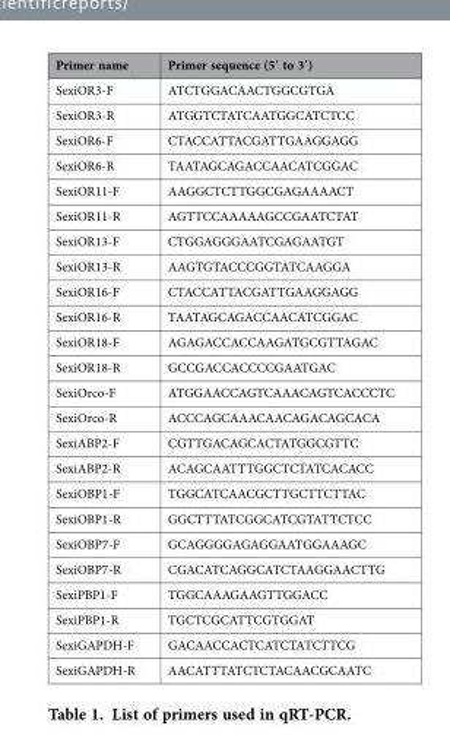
<table><thead><tr><td>Primer name</td><td>Primer sequence (5′ to 3′)</td></tr></thead><tbody><tr><td>SexiOR3-F</td><td>ATCTGGACAACTGGCGTGA</td></tr><tr><td>SexiOR3-R</td><td>ATGGTCTATCAATGGCATCTCC</td></tr><tr><td>SexiOR6-F</td><td>CTACCATTACGATTGAAGGAGG</td></tr><tr><td>SexiOR6-R</td><td>TAATAGCAGACCAACATCGGAC</td></tr><tr><td>SexiOR11-F</td><td>AAGGCTCTTGGCGAGAAAACT</td></tr><tr><td>SexiOR11-R</td><td>AGTTCCAAAAAGCCGAATCTAT</td></tr><tr><td>SexiOR13-F</td><td>CTGGAGGGAATCGAGAATGT</td></tr><tr><td>SexiOR13-R</td><td>AAGTGTACCCGGTATCAAGGA</td></tr><tr><td>SexiOR16-F</td><td>CTACCATTACGATTGAAGGAGG</td></tr><tr><td>SexiOR16-R</td><td>TAATAGCAGACCAACATCGGAC</td></tr><tr><td>SexiOR18-F</td><td>AGAGACCACCAAGATGCGTTAGAC</td></tr><tr><td>SexiOR18-R</td><td>GCCGACCACCCCGAATGAC</td></tr><tr><td>SexiOrco-F</td><td>ATGGAACCAGTCAAACAGTCACCCTC</td></tr><tr><td>SexiOrco-R</td><td>ACCCAGCAAACAACAGACAGCACA</td></tr><tr><td>SexiABP2-F</td><td>CGTTGACAGCACTATGGCGTTC</td></tr><tr><td>SexiABP2-R</td><td>ACAGCAATTTGGCTCTATCACACC</td></tr><tr><td>SexiOBP1-F</td><td>TGGCATCAACGCTTGCTTCTTAC</td></tr><tr><td>SexiOBP1-R</td><td>GGCTTTATCGGCATCGTATTCTCC</td></tr><tr><td>SexiOBP7-F</td><td>GCAGGGGAGAGGAATGGAAAGC</td></tr><tr><td>SexiOBP7-R</td><td>CGACATCAGGCATCTAAGGAACTTG</td></tr><tr><td>SexiPBP1-F</td><td>TGGCAAAGAAGTTGGACC</td></tr><tr><td>SexiPBP1-R</td><td>TGCTCGCATTCGTGGAT</td></tr><tr><td>SexiGAPDH-F</td><td>GACAACCACTCATCTATCTTCG</td></tr><tr><td>SexiGAPDH-R</td><td>AACATTTATCTCTACAACGCAATC</td></tr></tbody></table>